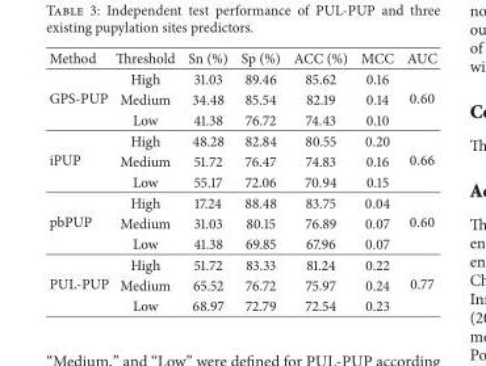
<table><thead><tr><td>Method</td><td>Threshold</td><td>Sn (%)</td><td>Sp (%)</td><td>ACC (%)</td><td>MCC</td><td>AUC</td></tr></thead><tbody><tr><td rowspan="3">GPS-PUP</td><td>High</td><td>31.03</td><td>89.46</td><td>85.62</td><td>0.16</td><td rowspan="3">0.60</td></tr><tr><td>Medium</td><td>34.48</td><td>85.54</td><td>82.19</td><td>0.14</td></tr><tr><td>Low</td><td>41.38</td><td>76.72</td><td>74.43</td><td>0.10</td></tr><tr><td rowspan="3">iPUP</td><td>High</td><td>48.28</td><td>82.84</td><td>80.55</td><td>0.20</td><td rowspan="3">0.66</td></tr><tr><td>Medium</td><td>51.72</td><td>76.47</td><td>74.83</td><td>0.16</td></tr><tr><td>Low</td><td>55.17</td><td>72.06</td><td>70.94</td><td>0.15</td></tr><tr><td rowspan="3">pbPUP</td><td>High</td><td>17.24</td><td>88.48</td><td>83.75</td><td>0.04</td><td rowspan="3">0.60</td></tr><tr><td>Medium</td><td>31.03</td><td>80.15</td><td>76.89</td><td>0.07</td></tr><tr><td>Low</td><td>41.38</td><td>69.85</td><td>67.96</td><td>0.07</td></tr><tr><td rowspan="3">PUL-PUP</td><td>High</td><td>51.72</td><td>83.33</td><td>81.24</td><td>0.22</td><td rowspan="3">0.77</td></tr><tr><td>Medium</td><td>65.52</td><td>76.72</td><td>75.97</td><td>0.24</td></tr><tr><td>Low</td><td>68.97</td><td>72.79</td><td>72.54</td><td>0.23</td></tr></tbody></table>